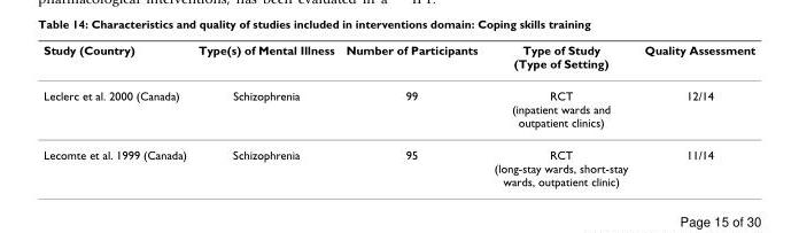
<table><thead><tr><td>Study (Country)</td><td>Type(s) of Mental Illness</td><td>Number of Participants</td><td>Type of Study (Type of Setting)</td><td>Quality Assessment</td></tr></thead><tbody><tr><td>Leclerc et al. 2000 (Canada)</td><td>Schizophrenia</td><td>99</td><td>RCT (inpatient wards and outpatient clinics)</td><td>12/14</td></tr><tr><td>Lecomte et al. 1999 (Canada)</td><td>Schizophrenia</td><td>95</td><td>RCT (long-stay wards, short-stay wards, outpatient clinic)</td><td>11/14</td></tr></tbody></table>